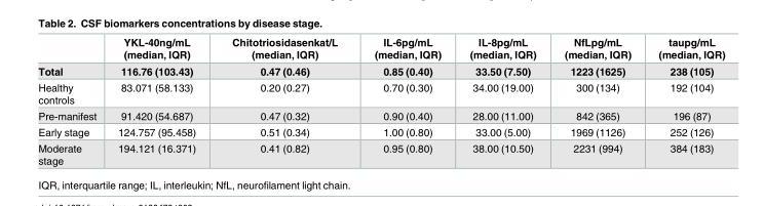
<table><thead><tr><td></td><td>YKL-40ng/mL (median, IQR)</td><td>Chitotriosidasenkat/L (median, IQR)</td><td>IL-6pg/mL (median, IQR)</td><td>IL-8pg/mL (median, IQR)</td><td>NfLpg/mL (median, IQR)</td><td>taupg/mL (median, IQR)</td></tr></thead><tbody><tr><td>Total</td><td>116.76 (103.43)</td><td>0.47 (0.46)</td><td>0.85 (0.40)</td><td>33.50 (7.50)</td><td>1223 (1625)</td><td>238 (105)</td></tr><tr><td>Healthy controls</td><td>83.071 (58.133)</td><td>0.20 (0.27)</td><td>0.70 (0.30)</td><td>34.00 (19.00)</td><td>300 (134)</td><td>192 (104)</td></tr><tr><td>Pre-manifest</td><td>91.420 (54.687)</td><td>0.47 (0.32)</td><td>0.90 (0.40)</td><td>28.00 (11.00)</td><td>842 (365)</td><td>196 (87)</td></tr><tr><td>Early stage</td><td>124.757 (95.458)</td><td>0.51 (0.34)</td><td>1.00 (0.80)</td><td>33.00 (5.00)</td><td>1969 (1126)</td><td>252 (126)</td></tr><tr><td>Moderate stage</td><td>194.121 (16.371)</td><td>0.41 (0.82)</td><td>0.95 (0.80)</td><td>38.00 (10.50)</td><td>2231 (994)</td><td>384 (183)</td></tr></tbody></table>